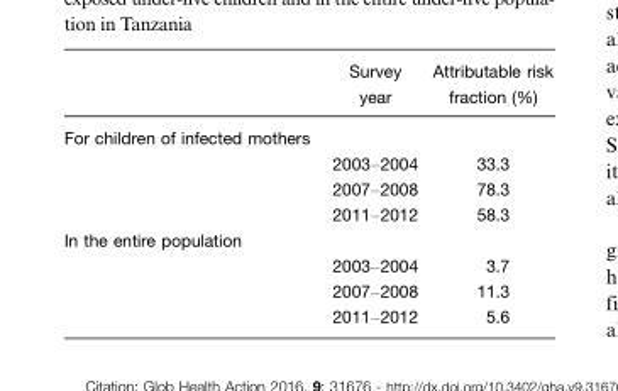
<table><thead><tr><td></td><td>Survey year</td><td>Attributable risk fraction (%)</td></tr></thead><tbody><tr><td colspan="3">For children of infected mothers</td></tr><tr><td></td><td>2003–2004</td><td>33.3</td></tr><tr><td></td><td>2007–2008</td><td>78.3</td></tr><tr><td></td><td>2011–2012</td><td>58.3</td></tr><tr><td colspan="3">In the entire population</td></tr><tr><td></td><td>2003–2004</td><td>3.7</td></tr><tr><td></td><td>2007–2008</td><td>11.3</td></tr><tr><td></td><td>2011–2012</td><td>5.6</td></tr></tbody></table>